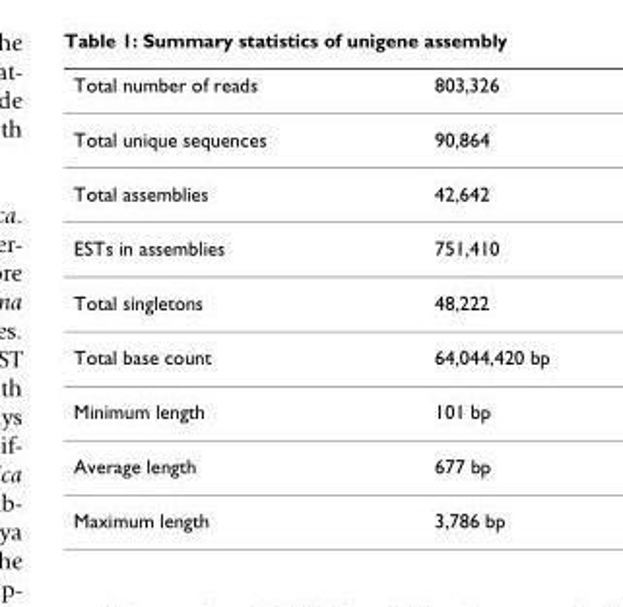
<table><thead><tr><td>Total number of reads</td><td>803,326</td></tr></thead><tbody><tr><td>Total unique sequences</td><td>90,864</td></tr><tr><td>Total assemblies</td><td>42,642</td></tr><tr><td>ESTs in assemblies</td><td>751,410</td></tr><tr><td>Total singletons</td><td>48,222</td></tr><tr><td>Total base count</td><td>64,044,420 bp</td></tr><tr><td>Minimum length</td><td>101 bp</td></tr><tr><td>Average length</td><td>677 bp</td></tr><tr><td>Maximum length</td><td>3,786 bp</td></tr></tbody></table>